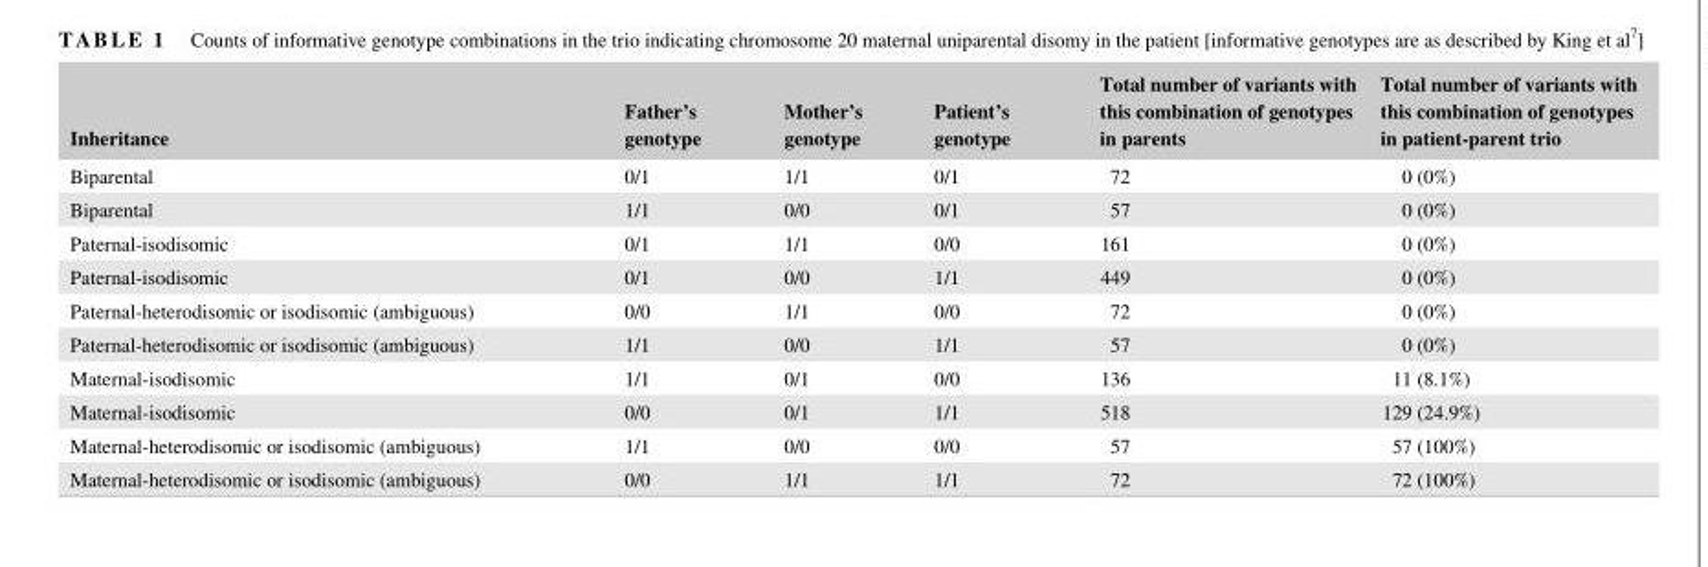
<table><thead><tr><td>Inheritance</td><td>Father’s genotype</td><td>Mother’s genotype</td><td>Patient’s genotype</td><td>Total number of variants with this combination of genotypes in parents</td><td>Total number of variants with this combination of genotypes in patient- parent trio</td></tr></thead><tbody><tr><td>Biparental</td><td>0/1</td><td>1/1</td><td>0/1</td><td>72</td><td>0 (0%)</td></tr><tr><td>Biparental</td><td>1/1</td><td>0/0</td><td>0/1</td><td>57</td><td>0 (0%)</td></tr><tr><td>Paternal- isodisomic</td><td>0/1</td><td>1/1</td><td>0/0</td><td>161</td><td>0 (0%)</td></tr><tr><td>Paternal- isodisomic</td><td>0/1</td><td>0/0</td><td>1/1</td><td>449</td><td>0 (0%)</td></tr><tr><td>Paternal- heterodisomic or isodisomic (ambiguous)</td><td>0/0</td><td>1/1</td><td>0/0</td><td>72</td><td>0 (0%)</td></tr><tr><td>Paternal- heterodisomic or isodisomic (ambiguous)</td><td>1/1</td><td>0/0</td><td>1/1</td><td>57</td><td>0 (0%)</td></tr><tr><td>Maternal- isodisomic</td><td>1/1</td><td>0/1</td><td>0/0</td><td>136</td><td>11 (8.1%)</td></tr><tr><td>Maternal- isodisomic</td><td>0/0</td><td>0/1</td><td>1/1</td><td>518</td><td>129 (24.9%)</td></tr><tr><td>Maternal- heterodisomic or isodisomic (ambiguous)</td><td>1/1</td><td>0/0</td><td>0/0</td><td>57</td><td>57 (100%)</td></tr><tr><td>Maternal- heterodisomic or isodisomic (ambiguous)</td><td>0/0</td><td>1/1</td><td>1/1</td><td>72</td><td>72 (100%)</td></tr></tbody></table>